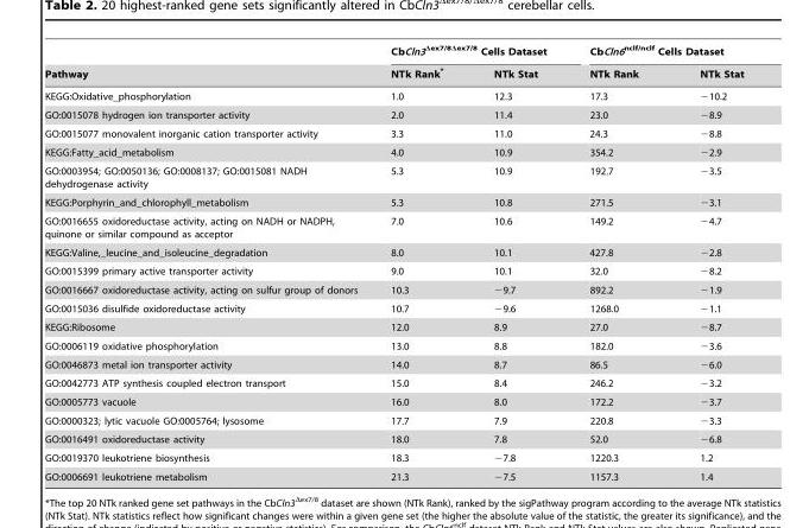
<table><thead><tr><td rowspan="2">Pathway</td><td colspan="2">CbCln3<sup>Δex7/8Δex7/8</sup> Cells Dataset</td><td colspan="2">CbCln6<sup>nclf/nclf</sup> Cells Dataset</td></tr><tr><td>NTk Rank*</td><td>NTk Stat</td><td>NTk Rank</td><td>NTk Stat</td></tr></thead><tbody><tr><td>KEGG:Oxidative_phosphorylation</td><td>1.0</td><td>12.3</td><td>17.3</td><td>−10.2</td></tr><tr><td>GO:0015078 hydrogen ion transporter activity</td><td>2.0</td><td>11.4</td><td>23.0</td><td>−8.9</td></tr><tr><td>GO:0015077 monovalent inorganic cation transporter activity</td><td>3.3</td><td>11.0</td><td>24.3</td><td>−8.8</td></tr><tr><td>KEGG:Fatty_acid_metabolism</td><td>4.0</td><td>10.9</td><td>354.2</td><td>−2.9</td></tr><tr><td>GO:0003954; GO:0050136; GO:0008137; GO:0015081 NADH dehydrogenase activity</td><td>5.3</td><td>10.9</td><td>192.7</td><td>−3.5</td></tr><tr><td>KEGG:Porphyrin_and_chlorophyll_metabolism</td><td>5.3</td><td>10.8</td><td>271.5</td><td>−3.1</td></tr><tr><td>GO:0016655 oxidoreductase activity, acting on NADH or NADPH, quinone or similar compound as acceptor</td><td>7.0</td><td>10.6</td><td>149.2</td><td>−4.7</td></tr><tr><td>KEGG:Valine,_leucine_and_isoleucine_degradation</td><td>8.0</td><td>10.1</td><td>427.8</td><td>−2.8</td></tr><tr><td>GO:0015399 primary active transporter activity</td><td>9.0</td><td>10.1</td><td>32.0</td><td>−8.2</td></tr><tr><td>GO:0016667 oxidoreductase activity, acting on sulfur group of donors</td><td>10.3</td><td>−9.7</td><td>892.2</td><td>−1.9</td></tr><tr><td>GO:0015036 disulfide oxidoreductase activity</td><td>10.7</td><td>−9.6</td><td>1268.0</td><td>−1.1</td></tr><tr><td>KEGG:Ribosome</td><td>12.0</td><td>8.9</td><td>27.0</td><td>−8.7</td></tr><tr><td>GO:0006119 oxidative phosphorylation</td><td>13.0</td><td>8.8</td><td>182.0</td><td>−3.6</td></tr><tr><td>GO:0046873 metal ion transporter activity</td><td>14.0</td><td>8.7</td><td>86.5</td><td>−6.0</td></tr><tr><td>GO:0042773 ATP synthesis coupled electron transport</td><td>15.0</td><td>8.4</td><td>246.2</td><td>−3.2</td></tr><tr><td>GO:0005773 vacuole</td><td>16.0</td><td>8.0</td><td>172.2</td><td>−3.7</td></tr><tr><td>GO:0000323; lytic vacuole GO:0005764; lysosome</td><td>17.7</td><td>7.9</td><td>220.8</td><td>−3.3</td></tr><tr><td>GO:0016491 oxidoreductase activity</td><td>18.0</td><td>7.8</td><td>52.0</td><td>−6.8</td></tr><tr><td>GO:0019370 leukotriene biosynthesis</td><td>18.3</td><td>−7.8</td><td>1220.3</td><td>1.2</td></tr><tr><td>GO:0006691 leukotriene metabolism</td><td>21.3</td><td>−7.5</td><td>1157.3</td><td>1.4</td></tr></tbody></table>